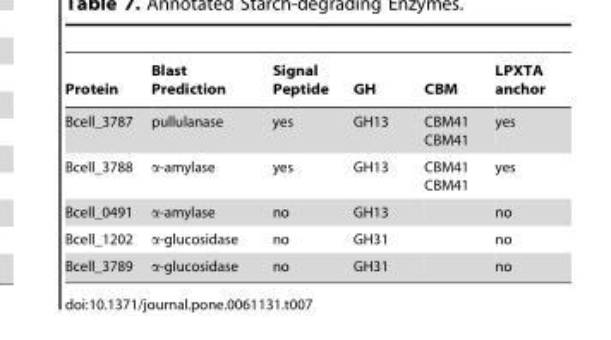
<table><thead><tr><td>Protein</td><td>Blast Prediction</td><td>Signal Peptide</td><td>GH</td><td>CBM</td><td>LPXTA anchor</td></tr></thead><tbody><tr><td>Bcell_3787</td><td>pullulanase</td><td>yes</td><td>GH13</td><td>CBM41 CBM41</td><td>yes</td></tr><tr><td>Bcell_3788</td><td>α-amylase</td><td>yes</td><td>GH13</td><td>CBM41 CBM41</td><td>yes</td></tr><tr><td>Bcell_0491</td><td>α-amylase</td><td>no</td><td>GH13</td><td></td><td>no</td></tr><tr><td>Bcell_1202</td><td>α-glucosidase</td><td>no</td><td>GH31</td><td></td><td>no</td></tr><tr><td>Bcell_3789</td><td>α-glucosidase</td><td>no</td><td>GH31</td><td></td><td>no</td></tr></tbody></table>